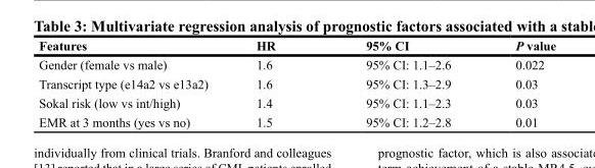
<table><thead><tr><td>Features</td><td>HR</td><td>95% CI</td><td>P value</td></tr></thead><tbody><tr><td>Gender (female vs male)</td><td>1.6</td><td>95% CI: 1.1–2.6</td><td>0.022</td></tr><tr><td>Transcript type (e14a2 vs e13a2)</td><td>1.6</td><td>95% CI: 1.3–2.9</td><td>0.03</td></tr><tr><td>Sokal risk (low vs int/high)</td><td>1.4</td><td>95% CI: 1.1–2.3</td><td>0.03</td></tr><tr><td>EMR at 3 months (yes vs no)</td><td>1.5</td><td>95% CI: 1.2–2.8</td><td>0.01</td></tr></tbody></table>